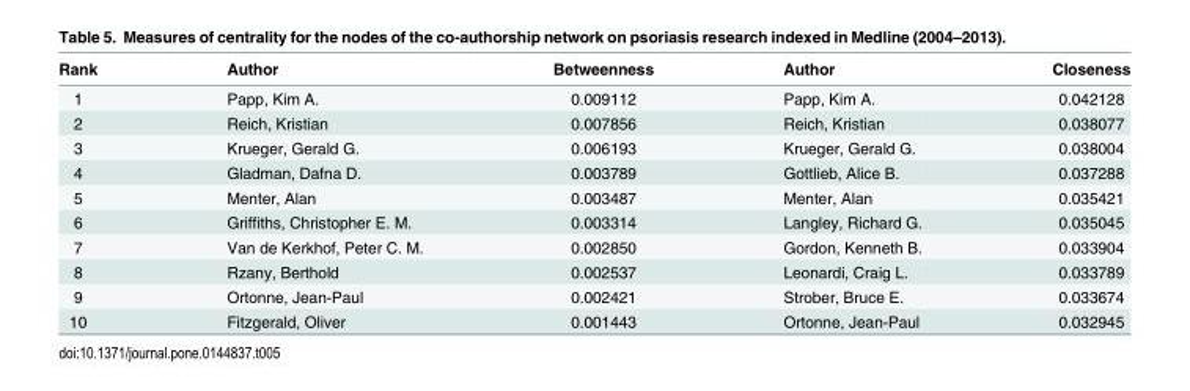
<table><thead><tr><td>Rank</td><td>Author</td><td>Betweenness</td><td>Author</td><td>Closeness</td></tr></thead><tbody><tr><td>1</td><td>Papp, Kim A.</td><td>0.009112</td><td>Papp, Kim A.</td><td>0.042128</td></tr><tr><td>2</td><td>Reich, Kristian</td><td>0.007856</td><td>Reich, Kristian</td><td>0.038077</td></tr><tr><td>3</td><td>Krueger, Gerald G.</td><td>0.006193</td><td>Krueger, Gerald G.</td><td>0.038004</td></tr><tr><td>4</td><td>Gladman, Dafna D.</td><td>0.003789</td><td>Gottlieb, Alice B.</td><td>0.037288</td></tr><tr><td>5</td><td>Menter, Alan</td><td>0.003487</td><td>Menter, Alan</td><td>0.035421</td></tr><tr><td>6</td><td>Griffiths, Christopher E. M.</td><td>0.003314</td><td>Langley, Richard G.</td><td>0.035045</td></tr><tr><td>7</td><td>Van de Kerkhof, Peter C. M.</td><td>0.002850</td><td>Gordon, Kenneth B.</td><td>0.033904</td></tr><tr><td>8</td><td>Rzany, Berthold</td><td>0.002537</td><td>Leonardi, Craig L.</td><td>0.033789</td></tr><tr><td>9</td><td>Ortonne, Jean-Paul</td><td>0.002421</td><td>Strober, Bruce E.</td><td>0.033674</td></tr><tr><td>10</td><td>Fitzgerald, Oliver</td><td>0.001443</td><td>Ortonne, Jean-Paul</td><td>0.032945</td></tr></tbody></table>